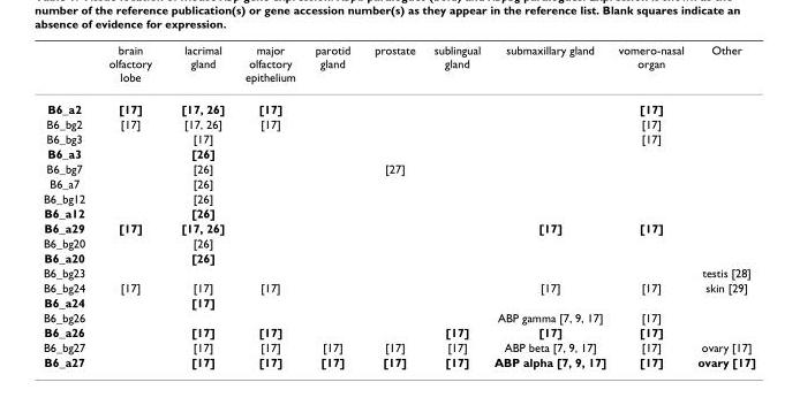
<table><thead><tr><td></td><td>brain olfactory lobe</td><td>lacrimal gland</td><td>major olfactory epithelium</td><td>parotid gland</td><td>prostate</td><td>sublingual gland</td><td>submaxillary gland</td><td>vomero-nasal organ</td><td>Other</td></tr></thead><tbody><tr><td>B6_a2</td><td>[17]</td><td>[17, 26]</td><td>[17]</td><td></td><td></td><td></td><td></td><td>[17]</td><td></td></tr><tr><td>B6_bg2</td><td>[17]</td><td>[17, 26]</td><td>[17]</td><td></td><td></td><td></td><td></td><td>[17]</td><td></td></tr><tr><td>B6_bg3</td><td></td><td>[17]</td><td></td><td></td><td></td><td></td><td></td><td>[17]</td><td></td></tr><tr><td>B6_a3</td><td></td><td>[26]</td><td></td><td></td><td></td><td></td><td></td><td></td><td></td></tr><tr><td>B6_bg7</td><td></td><td>[26]</td><td></td><td></td><td>[27]</td><td></td><td></td><td></td><td></td></tr><tr><td>B6_a7</td><td></td><td>[26]</td><td></td><td></td><td></td><td></td><td></td><td></td><td></td></tr><tr><td>B6_bg12</td><td></td><td>[26]</td><td></td><td></td><td></td><td></td><td></td><td></td><td></td></tr><tr><td>B6_a12</td><td></td><td>[26]</td><td></td><td></td><td></td><td></td><td></td><td></td><td></td></tr><tr><td>B6_a29</td><td>[17]</td><td>[17, 26]</td><td></td><td></td><td></td><td></td><td>[17]</td><td>[17]</td><td></td></tr><tr><td>B6_bg20</td><td></td><td>[26]</td><td></td><td></td><td></td><td></td><td></td><td></td><td></td></tr><tr><td>B6_a20</td><td></td><td>[26]</td><td></td><td></td><td></td><td></td><td></td><td></td><td></td></tr><tr><td>B6_bg23</td><td></td><td></td><td></td><td></td><td></td><td></td><td></td><td></td><td>testis [28]</td></tr><tr><td>B6_bg24</td><td>[17]</td><td>[17]</td><td>[17]</td><td></td><td></td><td></td><td>[17]</td><td>[17]</td><td>skin [29]</td></tr><tr><td>B6_a24</td><td></td><td>[17]</td><td></td><td></td><td></td><td></td><td></td><td></td><td></td></tr><tr><td>B6_bg26</td><td></td><td></td><td></td><td></td><td></td><td></td><td>ABP gamma [7, 9, 17]</td><td>[17]</td><td></td></tr><tr><td>B6_a26</td><td></td><td>[17]</td><td>[17]</td><td></td><td></td><td>[17]</td><td>[17]</td><td>[17]</td><td></td></tr><tr><td>B6_bg27</td><td></td><td>[17]</td><td>[17]</td><td>[17]</td><td>[17]</td><td>[17]</td><td>ABP beta [7, 9, 17]</td><td>[17]</td><td>ovary [17]</td></tr><tr><td>B6_a27</td><td></td><td>[17]</td><td>[17]</td><td>[17]</td><td>[17]</td><td>[17]</td><td>ABP alpha [7, 9, 17]</td><td>[17]</td><td>ovary [17]</td></tr></tbody></table>